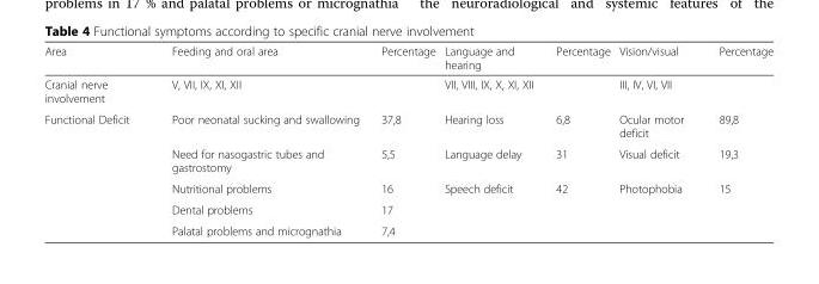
<table><thead><tr><td>Area</td><td>Feeding and oral area</td><td>Percentage</td><td>Language and hearing</td><td>Percentage</td><td>Vision/visual</td><td>Percentage</td></tr></thead><tbody><tr><td>Cranial nerve involvement</td><td>V, VII, IX, XI, XII</td><td></td><td>VII, VIII, IX, X, XI, XII</td><td></td><td>III, IV, VI, VII</td><td></td></tr><tr><td rowspan="5">Functional Deficit</td><td>Poor neonatal sucking and swallowing</td><td>37,8</td><td>Hearing loss</td><td>6,8</td><td>Ocular motor deficit</td><td>89,8</td></tr><tr><td>Need for nasogastric tubes and gastrostomy</td><td>5,5</td><td>Language delay</td><td>31</td><td>Visual deficit</td><td>19,3</td></tr><tr><td>Nutritional problems</td><td>16</td><td>Speech deficit</td><td>42</td><td>Photophobia</td><td>15</td></tr><tr><td>Dental problems</td><td>17</td><td></td><td></td><td></td><td></td></tr><tr><td>Palatal problems and micrognathia</td><td>7,4</td><td></td><td></td><td></td><td></td></tr></tbody></table>